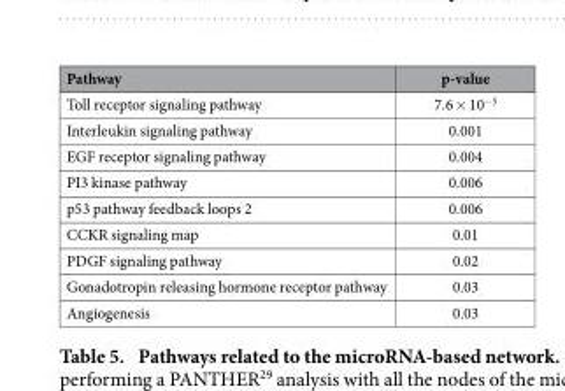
<table><thead><tr><td>Pathway</td><td>p-value</td></tr></thead><tbody><tr><td>Toll receptor signaling pathway</td><td>7.6 × 10<sup>−5</sup></td></tr><tr><td>Interleukin signaling pathway</td><td>0.001</td></tr><tr><td>EGF receptor signaling pathway</td><td>0.004</td></tr><tr><td>PI3 kinase pathway</td><td>0.006</td></tr><tr><td>p53 pathway feedback loops 2</td><td>0.006</td></tr><tr><td>CCKR signaling map</td><td>0.01</td></tr><tr><td>PDGF signaling pathway</td><td>0.02</td></tr><tr><td>Gonadotropin releasing hormone receptor pathway</td><td>0.03</td></tr><tr><td>Angiogenesis</td><td>0.03</td></tr></tbody></table>